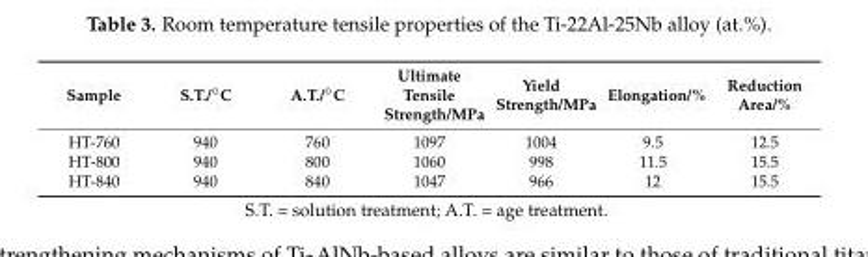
<table><thead><tr><td>Sample</td><td>S.T./◦C</td><td>A.T./◦C</td><td>Ultimate Tensile Strength/MPa</td><td>Yield Strength/MPa</td><td>Elongation/%</td><td>Reduction Area/%</td></tr></thead><tbody><tr><td>HT-760</td><td>940</td><td>760</td><td>1097</td><td>1004</td><td>9.5</td><td>12.5</td></tr><tr><td>HT-800</td><td>940</td><td>800</td><td>1060</td><td>998</td><td>11.5</td><td>15.5</td></tr><tr><td>HT-840</td><td>940</td><td>840</td><td>1047</td><td>966</td><td>12</td><td>15.5</td></tr></tbody></table>